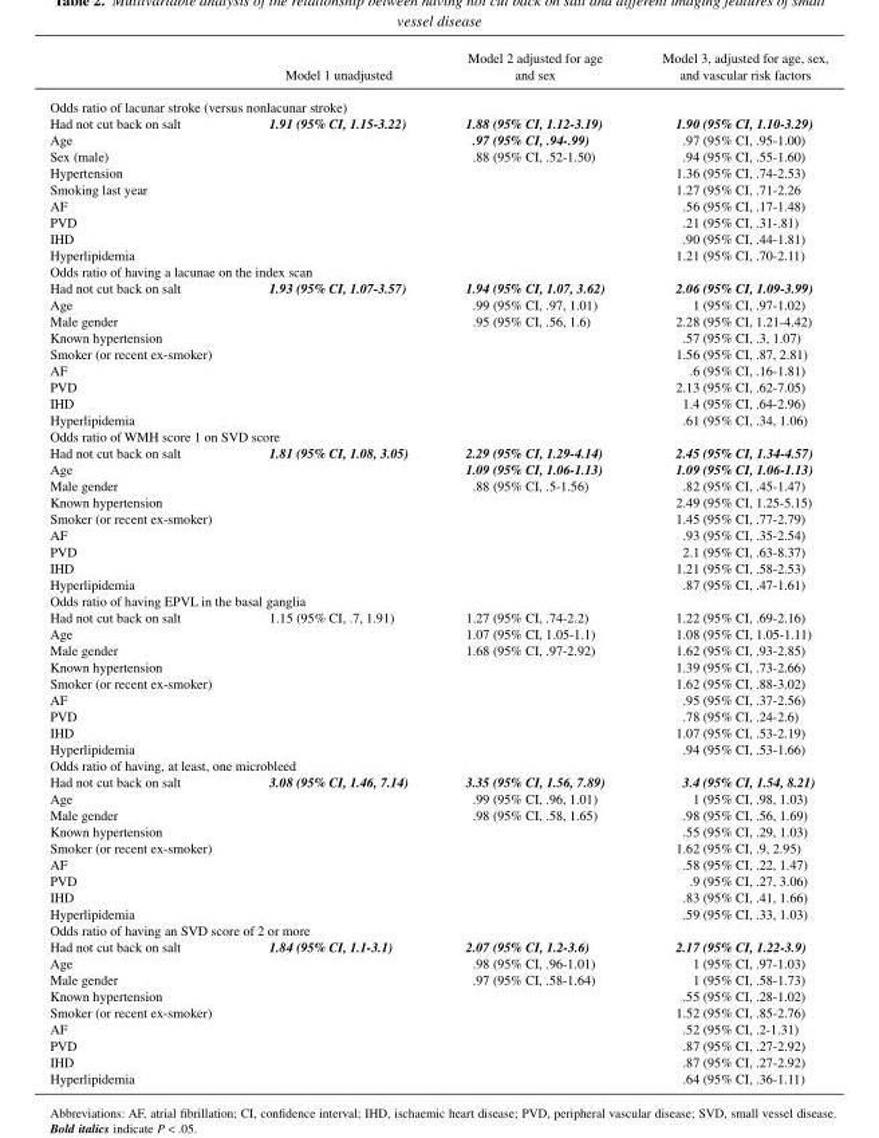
<table><thead><tr><td></td><td>Model 1 unadjusted</td><td>Model 2 adjusted for age and sex</td><td>Model 3, adjusted for age, sex, and vascular risk factors</td></tr></thead><tbody><tr><td colspan="4">Odds ratio of lacunar stroke (versus nonlacunar stroke)</td></tr><tr><td>Had not cut back on salt</td><td>1.91 (95% CI, 1.15-3.22)</td><td>1.88 (95% CI, 1.12-3.19)</td><td>1.90 (95% CI, 1.10-3.29)</td></tr><tr><td>Age</td><td></td><td>.97 (95% CI, .94-.99)</td><td>.97 (95% CI, .95-1.00)</td></tr><tr><td>Sex (male)</td><td></td><td>.88 (95% CI, .52-1.50)</td><td>.94 (95% CI, .55-1.60)</td></tr><tr><td>Hypertension</td><td></td><td></td><td>1.36 (95% CI, .74-2.53)</td></tr><tr><td>Smoking last year</td><td></td><td></td><td>1.27 (95% CI, .71-2.26</td></tr><tr><td>AF</td><td></td><td></td><td>.56 (95% CI, .17-1.48)</td></tr><tr><td>PVD</td><td></td><td></td><td>.21 (95% CI, .31-.81)</td></tr><tr><td>IHD</td><td></td><td></td><td>.90 (95% CI, .44-1.81)</td></tr><tr><td>Hyperlipidemia</td><td></td><td></td><td>1.21 (95% CI, .70-2.11)</td></tr><tr><td colspan="4">Odds ratio of having a lacunae on the index scan</td></tr><tr><td>Had not cut back on salt</td><td>1.93 (95% CI, 1.07-3.57)</td><td>1.94 (95% CI, 1.07, 3.62)</td><td>2.06 (95% CI, 1.09-3.99)</td></tr><tr><td>Age</td><td></td><td>.99 (95% CI, .97, 1.01)</td><td>1 (95% CI, .97-1.02)</td></tr><tr><td>Male gender</td><td></td><td>.95 (95% CI, .56, 1.6)</td><td>2.28 (95% CI, 1.21-4.42)</td></tr><tr><td>Known hypertension</td><td></td><td></td><td>.57 (95% CI, .3, 1.07)</td></tr><tr><td>Smoker (or recent ex-smoker)</td><td></td><td></td><td>1.56 (95% CI, .87, 2.81)</td></tr><tr><td>AF</td><td></td><td></td><td>.6 (95% CI, .16-1.81)</td></tr><tr><td>PVD</td><td></td><td></td><td>2.13 (95% CI, .62-7.05)</td></tr><tr><td>IHD</td><td></td><td></td><td>1.4 (95% CI, .64-2.96)</td></tr><tr><td>Hyperlipidemia</td><td></td><td></td><td>.61 (95% CI, .34, 1.06)</td></tr><tr><td colspan="4">Odds ratio of WMH score 1 on SVD score</td></tr><tr><td>Had not cut back on salt</td><td>1.81 (95% CI, 1.08, 3.05)</td><td>2.29 (95% CI, 1.29-4.14)</td><td>2.45 (95% CI, 1.34-4.57)</td></tr><tr><td>Age</td><td></td><td>1.09 (95% CI, 1.06-1.13)</td><td>1.09 (95% CI, 1.06-1.13)</td></tr><tr><td>Male gender</td><td></td><td>.88 (95% CI, .5-1.56)</td><td>.82 (95% CI, .45-1.47)</td></tr><tr><td>Known hypertension</td><td></td><td></td><td>2.49 (95% CI, 1.25-5.15)</td></tr><tr><td>Smoker (or recent ex-smoker)</td><td></td><td></td><td>1.45 (95% CI, .77-2.79)</td></tr><tr><td>AF</td><td></td><td></td><td>.93 (95% CI, .35-2.54)</td></tr><tr><td>PVD</td><td></td><td></td><td>2.1 (95% CI, .63-8.37)</td></tr><tr><td>IHD</td><td></td><td></td><td>1.21 (95% CI, .58-2.53)</td></tr><tr><td>Hyperlipidemia</td><td></td><td></td><td>.87 (95% CI, .47-1.61)</td></tr><tr><td colspan="4">Odds ratio of having EPVL in the basal ganglia</td></tr><tr><td>Had not cut back on salt</td><td>1.15 (95% CI, .7, 1.91)</td><td>1.27 (95% CI, .74-2.2)</td><td>1.22 (95% CI, .69-2.16)</td></tr><tr><td>Age</td><td></td><td>1.07 (95% CI, 1.05-1.1)</td><td>1.08 (95% CI, 1.05-1.11)</td></tr><tr><td>Male gender</td><td></td><td>1.68 (95% CI, .97-2.92)</td><td>1.62 (95% CI, .93-2.85)</td></tr><tr><td>Known hypertension</td><td></td><td></td><td>1.39 (95% CI, .73-2.66)</td></tr><tr><td>Smoker (or recent ex-smoker)</td><td></td><td></td><td>1.62 (95% CI, .88-3.02)</td></tr><tr><td>AF</td><td></td><td></td><td>.95 (95% CI, .37-2.56)</td></tr><tr><td>PVD</td><td></td><td></td><td>.78 (95% CI, .24-2.6)</td></tr><tr><td>IHD</td><td></td><td></td><td>1.07 (95% CI, .53-2.19)</td></tr><tr><td>Hyperlipidemia</td><td></td><td></td><td>.94 (95% CI, .53-1.66)</td></tr><tr><td colspan="4">Odds ratio of having, at least, one microbleed</td></tr><tr><td>Had not cut back on salt</td><td>3.08 (95% CI, 1.46, 7.14)</td><td>3.35 (95% CI, 1.56, 7.89)</td><td>3.4 (95% CI, 1.54, 8.21)</td></tr><tr><td>Age</td><td></td><td>.99 (95% CI, .96, 1.01)</td><td>1 (95% CI, .98, 1.03)</td></tr><tr><td>Male gender</td><td></td><td>.98 (95% CI, .58, 1.65)</td><td>.98 (95% CI, .56, 1.69)</td></tr><tr><td>Known hypertension</td><td></td><td></td><td>.55 (95% CI, .29, 1.03)</td></tr><tr><td>Smoker (or recent ex-smoker)</td><td></td><td></td><td>1.62 (95% CI, .9, 2.95)</td></tr><tr><td>AF</td><td></td><td></td><td>.58 (95% CI, .22, 1.47)</td></tr><tr><td>PVD</td><td></td><td></td><td>.9 (95% CI, .27, 3.06)</td></tr><tr><td>IHD</td><td></td><td></td><td>.83 (95% CI, .41, 1.66)</td></tr><tr><td>Hyperlipidemia</td><td></td><td></td><td>.59 (95% CI, .33, 1.03)</td></tr><tr><td colspan="4">Odds ratio of having an SVD score of 2 or more</td></tr><tr><td>Had not cut back on salt</td><td>1.84 (95% CI, 1.1-3.1)</td><td>2.07 (95% CI, 1.2-3.6)</td><td>2.17 (95% CI, 1.22-3.9)</td></tr><tr><td>Age</td><td></td><td>.98 (95% CI, .96-1.01)</td><td>1 (95% CI, .97-1.03)</td></tr><tr><td>Male gender</td><td></td><td>.97 (95% CI, .58-1.64)</td><td>1 (95% CI, .58-1.73)</td></tr><tr><td>Known hypertension</td><td></td><td></td><td>.55 (95% CI, .28-1.02)</td></tr><tr><td>Smoker (or recent ex-smoker)</td><td></td><td></td><td>1.52 (95% CI, .85-2.76)</td></tr><tr><td>AF</td><td></td><td></td><td>.52 (95% CI, .2-1.31)</td></tr><tr><td>PVD</td><td></td><td></td><td>.87 (95% CI, .27-2.92)</td></tr><tr><td>IHD</td><td></td><td></td><td>.87 (95% CI, .27-2.92)</td></tr><tr><td>Hyperlipidemia</td><td></td><td></td><td>.64 (95% CI, .36-1.11)</td></tr></tbody></table>